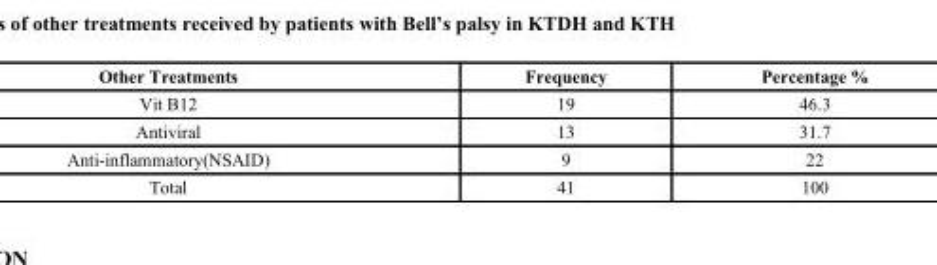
<table><thead><tr><td>Other Treatments</td><td>Frequency</td><td>Percentage %</td></tr></thead><tbody><tr><td>Vit B12</td><td>19</td><td>46.3</td></tr><tr><td>Antiviral</td><td>13</td><td>31.7</td></tr><tr><td>Anti-inflammatory(NSAID)</td><td>9</td><td>22</td></tr><tr><td>Total</td><td>41</td><td>100</td></tr></tbody></table>